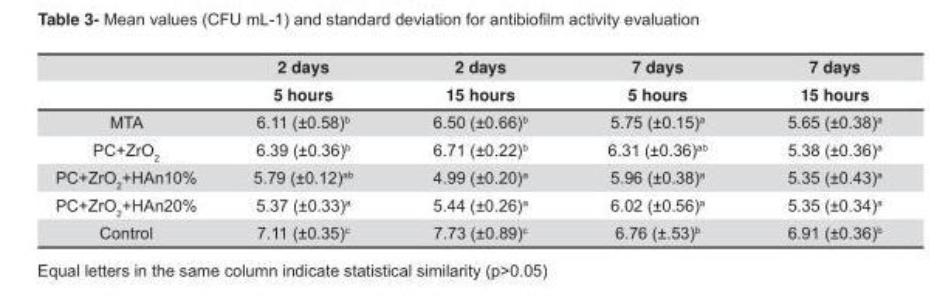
<table><thead><tr><td rowspan="2"></td><td rowspan="2">2 days 5 hours</td><td rowspan="2">2 days 15 hours</td><td rowspan="2">7 days 5 hours</td><td rowspan="2">7 days 15 hours</td></tr><tr></tr></thead><tbody><tr><td>MTA</td><td>6.11 (±0.58)<sup>b</sup></td><td>6.50 (±0.66)<sup>b</sup></td><td>5.75 (±0.15)<sup>a</sup></td><td>5.65 (±0.38)<sup>a</sup></td></tr><tr><td>PC+ZrO<sub>2</sub></td><td>6.39 (±0.36)<sup>b</sup></td><td>6.71 (±0.22)<sup>b</sup></td><td>6.31 (±0.36)<sup>ab</sup></td><td>5.38 (±0.36)<sup>a</sup></td></tr><tr><td>PC+ZrO<sub>2</sub>+HAn10%</td><td>5.79 (±0.12)<sup>ab</sup></td><td>4.99 (±0.20)<sup>a</sup></td><td>5.96 (±0.38)<sup>a</sup></td><td>5.35 (±0.43)<sup>a</sup></td></tr><tr><td>PC+ZrO<sub>2</sub>+HAn20%</td><td>5.37 (±0.33)<sup>a</sup></td><td>5.44 (±0.26)<sup>a</sup></td><td>6.02 (±0.56)<sup>a</sup></td><td>5.35 (±0.34)<sup>a</sup></td></tr><tr><td>Control</td><td>7.11 (±0.35)<sup>c</sup></td><td>7.73 (±0.89)<sup>c</sup></td><td>6.76 (±.53)<sup>b</sup></td><td>6.91 (±0.36)<sup>b</sup></td></tr></tbody></table>